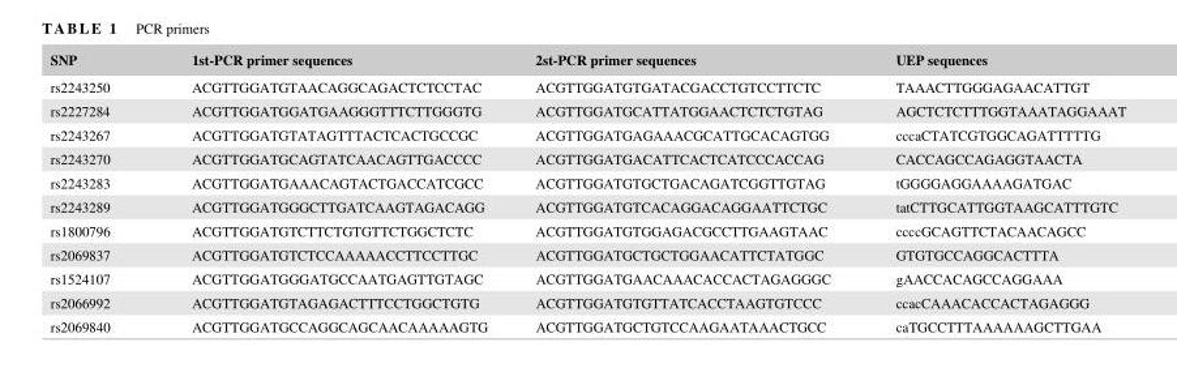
<table><thead><tr><td>SNP</td><td>1st‐PCR primer sequences</td><td>2st‐PCR primer sequences</td><td>UEP sequences</td></tr></thead><tbody><tr><td>rs2243250</td><td>ACGTTGGATGTAACAGGCAGACTCTCCTAC</td><td>ACGTTGGATGTGATACGACCTGTCCTTCTC</td><td>TAAACTTGGGAGAACATTGT</td></tr><tr><td>rs2227284</td><td>ACGTTGGATGGATGAAGGGTTTCTTGGGTG</td><td>ACGTTGGATGCATTATGGAACTCTCTGTAG</td><td>AGCTCTCTTTGGTAAATAGGAAAT</td></tr><tr><td>rs2243267</td><td>ACGTTGGATGTATAGTTTACTCACTGCCGC</td><td>ACGTTGGATGAGAAACGCATTGCACAGTGG</td><td>cccaCTATCGTGGCAGATTTTTG</td></tr><tr><td>rs2243270</td><td>ACGTTGGATGCAGTATCAACAGTTGACCCC</td><td>ACGTTGGATGACATTCACTCATCCCACCAG</td><td>CACCAGCCAGAGGTAACTA</td></tr><tr><td>rs2243283</td><td>ACGTTGGATGAAACAGTACTGACCATCGCC</td><td>ACGTTGGATGTGCTGACAGATCGGTTGTAG</td><td>tGGGGAGGAAAAGATGAC</td></tr><tr><td>rs2243289</td><td>ACGTTGGATGGGCTTGATCAAGTAGACAGG</td><td>ACGTTGGATGTCACAGGACAGGAATTCTGC</td><td>tatCTTGCATTGGTAAGCATTTGTC</td></tr><tr><td>rs1800796</td><td>ACGTTGGATGTCTTCTGTGTTCTGGCTCTC</td><td>ACGTTGGATGTGGAGACGCCTTGAAGTAAC</td><td>ccccGCAGTTCTACAACAGCC</td></tr><tr><td>rs2069837</td><td>ACGTTGGATGTCTCCAAAAACCTTCCTTGC</td><td>ACGTTGGATGCTGCTGGAACATTCTATGGC</td><td>GTGTGCCAGGCACTTTA</td></tr><tr><td>rs1524107</td><td>ACGTTGGATGGGATGCCAATGAGTTGTAGC</td><td>ACGTTGGATGAACAAACACCACTAGAGGGC</td><td>gAACCACAGCCAGGAAA</td></tr><tr><td>rs2066992</td><td>ACGTTGGATGTAGAGACTTTCCTGGCTGTG</td><td>ACGTTGGATGTGTTATCACCTAAGTGTCCC</td><td>ccacCAAACACCACTAGAGGG</td></tr><tr><td>rs2069840</td><td>ACGTTGGATGCCAGGCAGCAACAAAAAGTG</td><td>ACGTTGGATGCTGTCCAAGAATAAACTGCC</td><td>caTGCCTTTAAAAAAGCTTGAA</td></tr></tbody></table>